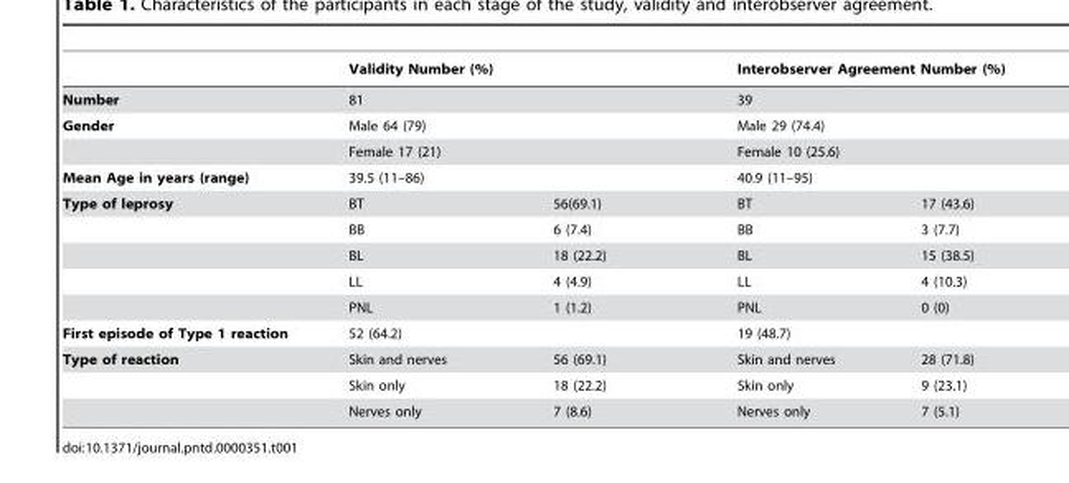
<table><thead><tr><td></td><td colspan="2">Validity Number (%)</td><td colspan="2">Interobserver Agreement Number (%)</td></tr></thead><tbody><tr><td>Number</td><td colspan="2">81</td><td colspan="2">39</td></tr><tr><td rowspan="2">Gender</td><td colspan="2">Male 64 (79)</td><td colspan="2">Male 29 (74.4)</td></tr><tr><td colspan="2">Female 17 (21)</td><td colspan="2">Female 10 (25.6)</td></tr><tr><td>Mean Age in years (range)</td><td colspan="2">39.5 (11–86)</td><td colspan="2">40.9 (11–95)</td></tr><tr><td rowspan="5">Type of leprosy</td><td>BT</td><td>56(69.1)</td><td>BT</td><td>17 (43.6)</td></tr><tr><td>BB</td><td>6 (7.4)</td><td>BB</td><td>3 (7.7)</td></tr><tr><td>BL</td><td>18 (22.2)</td><td>BL</td><td>15 (38.5)</td></tr><tr><td>LL</td><td>4 (4.9)</td><td>LL</td><td>4 (10.3)</td></tr><tr><td>PNL</td><td>1 (1.2)</td><td>PNL</td><td>0 (0)</td></tr><tr><td>First episode of Type 1 reaction</td><td colspan="2">52 (64.2)</td><td colspan="2">19 (48.7)</td></tr><tr><td rowspan="3">Type of reaction</td><td>Skin and nerves</td><td>56 (69.1)</td><td>Skin and nerves</td><td>28 (71.8)</td></tr><tr><td>Skin only</td><td>18 (22.2)</td><td>Skin only</td><td>9 (23.1)</td></tr><tr><td>Nerves only</td><td>7 (8.6)</td><td>Nerves only</td><td>7 (5.1)</td></tr></tbody></table>